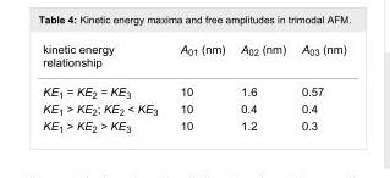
<table><tbody><tr><td>kinetic energy relationship</td><td>A<sub>01</sub> (nm)</td><td>A<sub>02</sub> (nm)</td><td>A<sub>03</sub> (nm)</td></tr><tr><td>KE<sub>1</sub> = KE<sub>2</sub> = KE<sub>3</sub></td><td>10</td><td>1.6</td><td>0.57</td></tr><tr><td>KE<sub>1</sub> &gt; KE<sub>2</sub>; KE<sub>2</sub> &lt; KE<sub>3</sub></td><td>10</td><td>0.4</td><td>0.4</td></tr><tr><td>KE<sub>1</sub> &gt; KE<sub>2</sub> &gt; KE<sub>3</sub></td><td>10</td><td>1.2</td><td>0.3</td></tr></tbody></table>